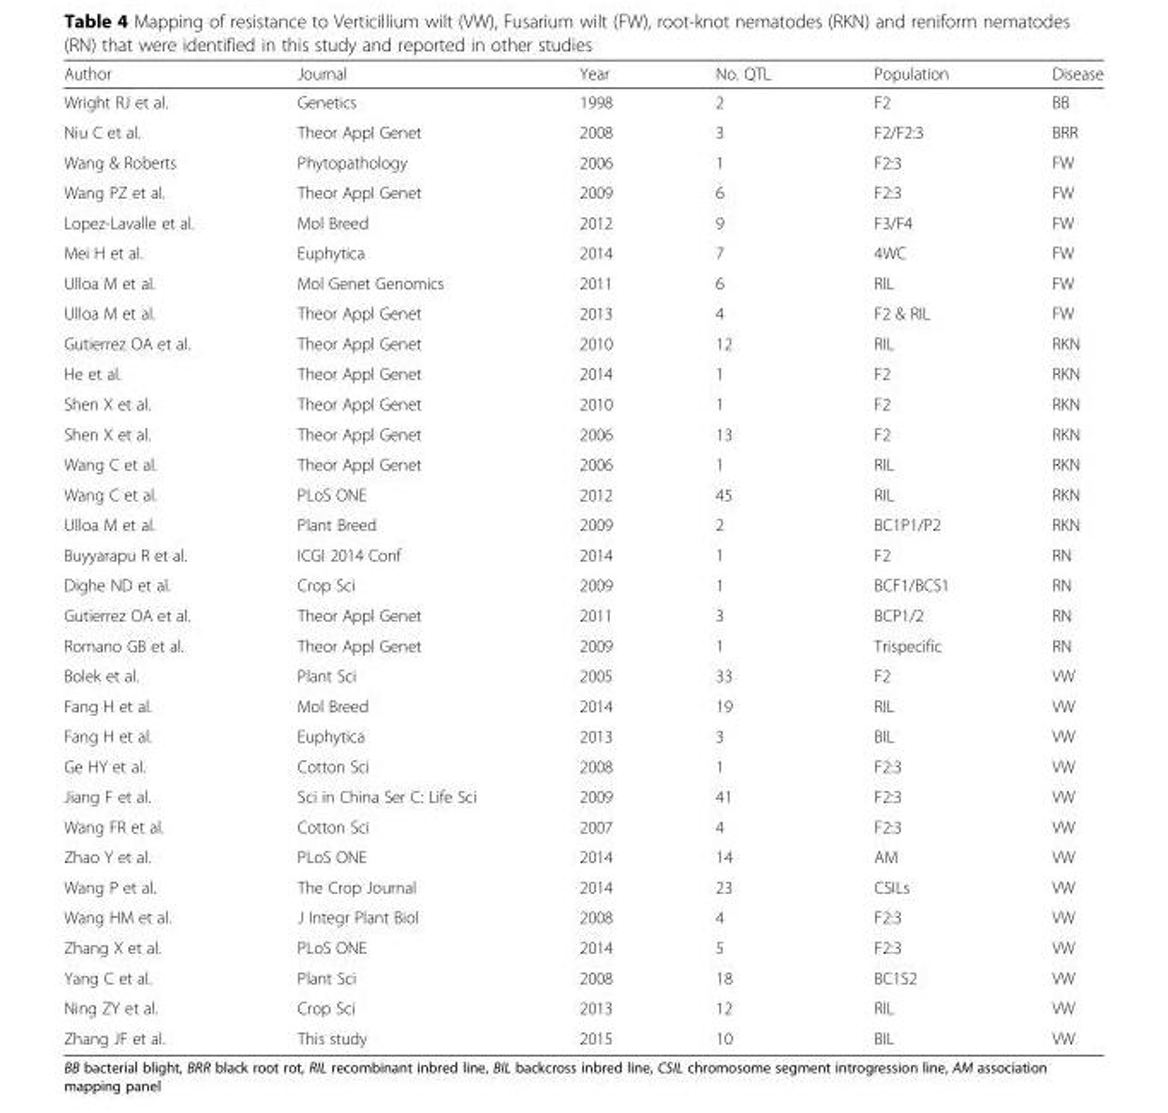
<table><thead><tr><td>Author</td><td>Journal</td><td>Year</td><td>No. QTL</td><td>Population</td><td>Disease</td></tr></thead><tbody><tr><td>Wright RJ et al.</td><td>Genetics</td><td>1998</td><td>2</td><td>F2</td><td>BB</td></tr><tr><td>Niu C et al.</td><td>Theor Appl Genet</td><td>2008</td><td>3</td><td>F2/F2:3</td><td>BRR</td></tr><tr><td>Wang &amp; Roberts</td><td>Phytopathology</td><td>2006</td><td>1</td><td>F2:3</td><td>FW</td></tr><tr><td>Wang PZ et al.</td><td>Theor Appl Genet</td><td>2009</td><td>6</td><td>F2:3</td><td>FW</td></tr><tr><td>Lopez-Lavalle et al.</td><td>Mol Breed</td><td>2012</td><td>9</td><td>F3/F4</td><td>FW</td></tr><tr><td>Mei H et al.</td><td>Euphytica</td><td>2014</td><td>7</td><td>4WC</td><td>FW</td></tr><tr><td>Ulloa M et al.</td><td>Mol Genet Genomics</td><td>2011</td><td>6</td><td>RIL</td><td>FW</td></tr><tr><td>Ulloa M et al.</td><td>Theor Appl Genet</td><td>2013</td><td>4</td><td>F2 &amp; RIL</td><td>FW</td></tr><tr><td>Gutierrez OA et al.</td><td>Theor Appl Genet</td><td>2010</td><td>12</td><td>RIL</td><td>RKN</td></tr><tr><td>He et al.</td><td>Theor Appl Genet</td><td>2014</td><td>1</td><td>F2</td><td>RKN</td></tr><tr><td>Shen X et al.</td><td>Theor Appl Genet</td><td>2010</td><td>1</td><td>F2</td><td>RKN</td></tr><tr><td>Shen X et al.</td><td>Theor Appl Genet</td><td>2006</td><td>13</td><td>F2</td><td>RKN</td></tr><tr><td>Wang C et al.</td><td>Theor Appl Genet</td><td>2006</td><td>1</td><td>RIL</td><td>RKN</td></tr><tr><td>Wang C et al.</td><td>PLoS ONE</td><td>2012</td><td>45</td><td>RIL</td><td>RKN</td></tr><tr><td>Ulloa M et al.</td><td>Plant Breed</td><td>2009</td><td>2</td><td>BC1P1/P2</td><td>RKN</td></tr><tr><td>Buyyarapu R et al.</td><td>ICGI 2014 Conf</td><td>2014</td><td>1</td><td>F2</td><td>RN</td></tr><tr><td>Dighe ND et al.</td><td>Crop Sci</td><td>2009</td><td>1</td><td>BCF1/BCS1</td><td>RN</td></tr><tr><td>Gutierrez OA et al.</td><td>Theor Appl Genet</td><td>2011</td><td>3</td><td>BCP1/2</td><td>RN</td></tr><tr><td>Romano GB et al.</td><td>Theor Appl Genet</td><td>2009</td><td>1</td><td>Trispecific</td><td>RN</td></tr><tr><td>Bolek et al.</td><td>Plant Sci</td><td>2005</td><td>33</td><td>F2</td><td>VW</td></tr><tr><td>Fang H et al.</td><td>Mol Breed</td><td>2014</td><td>19</td><td>RIL</td><td>VW</td></tr><tr><td>Fang H et al.</td><td>Euphytica</td><td>2013</td><td>3</td><td>BIL</td><td>VW</td></tr><tr><td>Ge HY et al.</td><td>Cotton Sci</td><td>2008</td><td>1</td><td>F2:3</td><td>VW</td></tr><tr><td>Jiang F et al.</td><td>Sci in China Ser C: Life Sci</td><td>2009</td><td>41</td><td>F2:3</td><td>VW</td></tr><tr><td>Wang FR et al.</td><td>Cotton Sci</td><td>2007</td><td>4</td><td>F2:3</td><td>VW</td></tr><tr><td>Zhao Y et al.</td><td>PLoS ONE</td><td>2014</td><td>14</td><td>AM</td><td>VW</td></tr><tr><td>Wang P et al.</td><td>The Crop Journal</td><td>2014</td><td>23</td><td>CSILs</td><td>VW</td></tr><tr><td>Wang HM et al.</td><td>J Integr Plant Biol</td><td>2008</td><td>4</td><td>F2:3</td><td>VW</td></tr><tr><td>Zhang X et al.</td><td>PLoS ONE</td><td>2014</td><td>5</td><td>F2:3</td><td>VW</td></tr><tr><td>Yang C et al.</td><td>Plant Sci</td><td>2008</td><td>18</td><td>BC1S2</td><td>VW</td></tr><tr><td>Ning ZY et al.</td><td>Crop Sci</td><td>2013</td><td>12</td><td>RIL</td><td>VW</td></tr><tr><td>Zhang JF et al.</td><td>This study</td><td>2015</td><td>10</td><td>BIL</td><td>VW</td></tr></tbody></table>